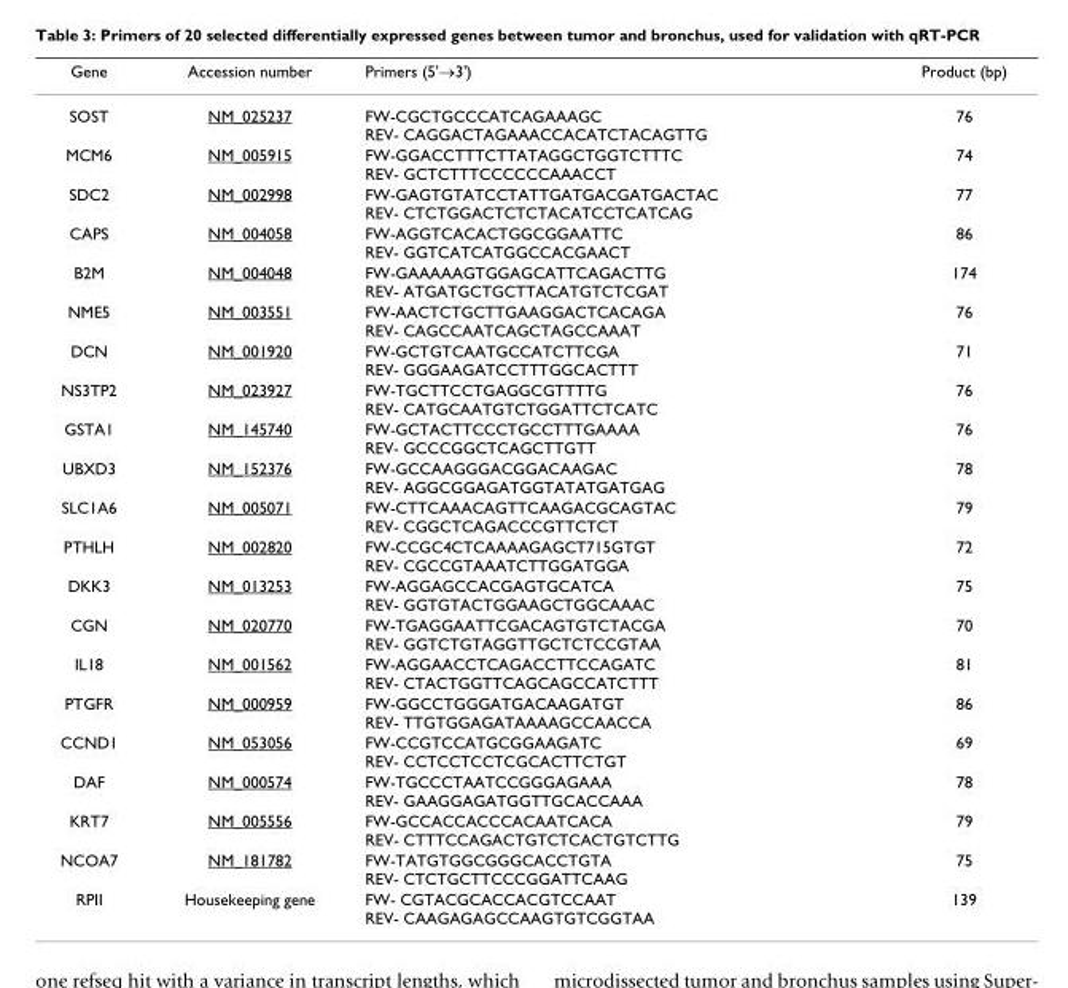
<table><thead><tr><td>Gene</td><td>Accession number</td><td>Primers (5&#x27;→3&#x27;)</td><td>Product (bp)</td></tr></thead><tbody><tr><td>SOST</td><td>NM_025237</td><td>FW-CGCTGCCCATCAGAAAGC REV- CAGGACTAGAAACCACATCTACAGTTG</td><td>76</td></tr><tr><td>MCM6</td><td>NM_005915</td><td>FW-GGACCTTTCTTATAGGCTGGTCTTTC REV- GCTCTTTCCCCCCAAACCT</td><td>74</td></tr><tr><td>SDC2</td><td>NM_002998</td><td>FW-GAGTGTATCCTATTGATGACGATGACTAC REV- CTCTGGACTCTCTACATCCTCATCAG</td><td>77</td></tr><tr><td>CAPS</td><td>NM_004058</td><td>FW-AGGTCACACTGGCGGAATTC REV- GGTCATCATGGCCACGAACT</td><td>86</td></tr><tr><td>B2M</td><td>NM_004048</td><td>FW-GAAAAAGTGGAGCATTCAGACTTG REV- ATGATGCTGCTTACATGTCTCGAT</td><td>174</td></tr><tr><td>NME5</td><td>NM_003551</td><td>FW-AACTCTGCTTGAAGGACTCACAGA REV- CAGCCAATCAGCTAGCCAAAT</td><td>76</td></tr><tr><td>DCN</td><td>NM_001920</td><td>FW-GCTGTCAATGCCATCTTCGA REV- GGGAAGATCCTTTGGCACTTT</td><td>71</td></tr><tr><td>NS3TP2</td><td>NM_023927</td><td>FW-TGCTTCCTGAGGCGTTTTG REV- CATGCAATGTCTGGATTCTCATC</td><td>76</td></tr><tr><td>GSTA1</td><td>NM_145740</td><td>FW-GCTACTTCCCTGCCTTTGAAAA REV- GCCCGGCTCAGCTTGTT</td><td>76</td></tr><tr><td>UBXD3</td><td>NM_152376</td><td>FW-GCCAAGGGACGGACAAGAC REV- AGGCGGAGATGGTATATGATGAG</td><td>78</td></tr><tr><td>SLC1A6</td><td>NM_005071</td><td>FW-CTTCAAACAGTTCAAGACGCAGTAC REV- CGGCTCAGACCCGTTCTCT</td><td>79</td></tr><tr><td>PTHLH</td><td>NM_002820</td><td>FW-CCGC4CTCAAAAGAGCT715GTGT REV- CGCCGTAAATCTTGGATGGA</td><td>72</td></tr><tr><td>DKK3</td><td>NM_013253</td><td>FW-AGGAGCCACGAGTGCATCA REV- GGTGTACTGGAAGCTGGCAAAC</td><td>75</td></tr><tr><td>CGN</td><td>NM_020770</td><td>FW-TGAGGAATTCGACAGTGTCTACGA REV- GGTCTGTAGGTTGCTCTCCGTAA</td><td>70</td></tr><tr><td>IL18</td><td>NM_001562</td><td>FW-AGGAACCTCAGACCTTCCAGATC REV- CTACTGGTTCAGCAGCCATCTTT</td><td>81</td></tr><tr><td>PTGFR</td><td>NM_000959</td><td>FW-GGCCTGGGATGACAAGATGT REV- TTGTGGAGATAAAAGCCAACCA</td><td>86</td></tr><tr><td>CCND1</td><td>NM_053056</td><td>FW-CCGTCCATGCGGAAGATC REV- CCTCCTCCTCGCACTTCTGT</td><td>69</td></tr><tr><td>DAF</td><td>NM_000574</td><td>FW-TGCCCTAATCCGGGAGAAA REV- GAAGGAGATGGTTGCACCAAA</td><td>78</td></tr><tr><td>KRT7</td><td>NM_005556</td><td>FW-GCCACCACCCACAATCACA REV- CTTTCCAGACTGTCTCACTGTCTTG</td><td>79</td></tr><tr><td>NCOA7</td><td>NM_181782</td><td>FW-TATGTGGCGGGCACCTGTA REV- CTCTGCTTCCCGGATTCAAG</td><td>75</td></tr><tr><td>RPII</td><td>Housekeeping gene</td><td>FW- CGTACGCACCACGTCCAAT REV- CAAGAGAGCCAAGTGTCGGTAA</td><td>139</td></tr></tbody></table>